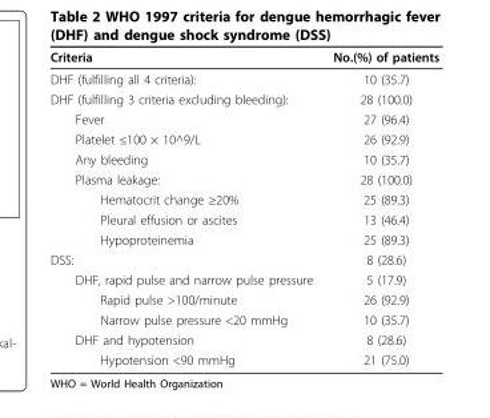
<table><thead><tr><td>Criteria</td><td>No.(%) of patients</td></tr></thead><tbody><tr><td>DHF (fulfilling all 4 criteria):</td><td>10 (35.7)</td></tr><tr><td>DHF (fulfilling 3 criteria excluding bleeding):</td><td>28 (100.0)</td></tr><tr><td>Fever</td><td>27 (96.4)</td></tr><tr><td>Platelet ≤100 × 10^9/L</td><td>26 (92.9)</td></tr><tr><td>Any bleeding</td><td>10 (35.7)</td></tr><tr><td>Plasma leakage:</td><td>28 (100.0)</td></tr><tr><td>Hematocrit change ≥20%</td><td>25 (89.3)</td></tr><tr><td>Pleural effusion or ascites</td><td>13 (46.4)</td></tr><tr><td>Hypoproteinemia</td><td>25 (89.3)</td></tr><tr><td>DSS:</td><td>8 (28.6)</td></tr><tr><td>DHF, rapid pulse and narrow pulse pressure</td><td>5 (17.9)</td></tr><tr><td>Rapid pulse &gt;100/minute</td><td>26 (92.9)</td></tr><tr><td>Narrow pulse pressure &lt;20 mmHg</td><td>10 (35.7)</td></tr><tr><td>DHF and hypotension</td><td>8 (28.6)</td></tr><tr><td>Hypotension &lt;90 mmHg</td><td>21 (75.0)</td></tr></tbody></table>